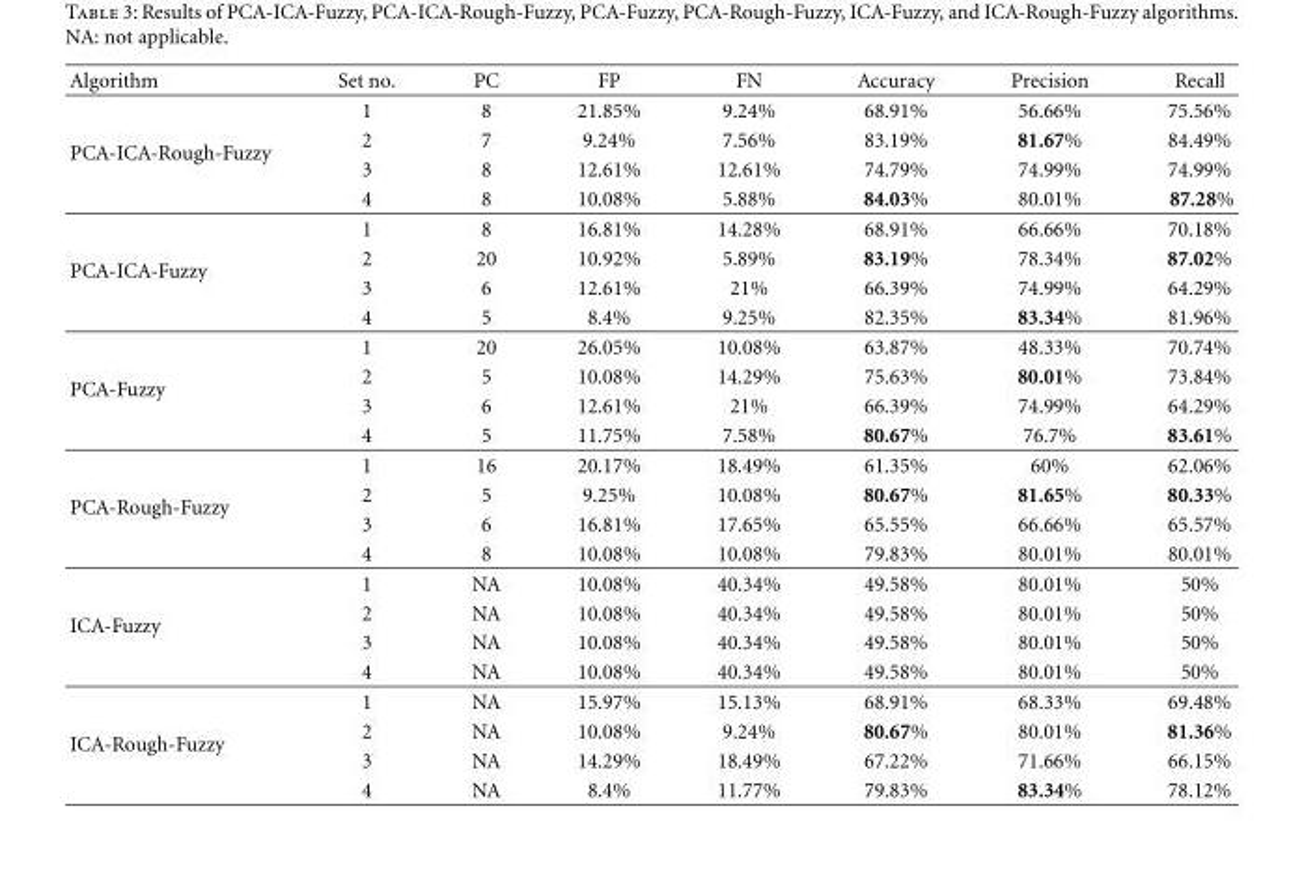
<table><thead><tr><td>Algorithm</td><td>Set no.</td><td>PC</td><td>FP</td><td>FN</td><td>Accuracy</td><td>Precision</td><td>Recall</td></tr></thead><tbody><tr><td rowspan="4">PCA-ICA-Rough-Fuzzy</td><td>1</td><td>8</td><td>21.85%</td><td>9.24%</td><td>68.91%</td><td>56.66%</td><td>75.56%</td></tr><tr><td>2</td><td>7</td><td>9.24%</td><td>7.56%</td><td>83.19%</td><td>81.67%</td><td>84.49%</td></tr><tr><td>3</td><td>8</td><td>12.61%</td><td>12.61%</td><td>74.79%</td><td>74.99%</td><td>74.99%</td></tr><tr><td>4</td><td>8</td><td>10.08%</td><td>5.88%</td><td>84.03%</td><td>80.01%</td><td>87.28%</td></tr><tr><td rowspan="4">PCA-ICA-Fuzzy</td><td>1</td><td>8</td><td>16.81%</td><td>14.28%</td><td>68.91%</td><td>66.66%</td><td>70.18%</td></tr><tr><td>2</td><td>20</td><td>10.92%</td><td>5.89%</td><td>83.19%</td><td>78.34%</td><td>87.02%</td></tr><tr><td>3</td><td>6</td><td>12.61%</td><td>21%</td><td>66.39%</td><td>74.99%</td><td>64.29%</td></tr><tr><td>4</td><td>5</td><td>8.4%</td><td>9.25%</td><td>82.35%</td><td>83.34%</td><td>81.96%</td></tr><tr><td rowspan="4">PCA-Fuzzy</td><td>1</td><td>20</td><td>26.05%</td><td>10.08%</td><td>63.87%</td><td>48.33%</td><td>70.74%</td></tr><tr><td>2</td><td>5</td><td>10.08%</td><td>14.29%</td><td>75.63%</td><td>80.01%</td><td>73.84%</td></tr><tr><td>3</td><td>6</td><td>12.61%</td><td>21%</td><td>66.39%</td><td>74.99%</td><td>64.29%</td></tr><tr><td>4</td><td>5</td><td>11.75%</td><td>7.58%</td><td>80.67%</td><td>76.7%</td><td>83.61%</td></tr><tr><td rowspan="4">PCA-Rough-Fuzzy</td><td>1</td><td>16</td><td>20.17%</td><td>18.49%</td><td>61.35%</td><td>60%</td><td>62.06%</td></tr><tr><td>2</td><td>5</td><td>9.25%</td><td>10.08%</td><td>80.67%</td><td>81.65%</td><td>80.33%</td></tr><tr><td>3</td><td>6</td><td>16.81%</td><td>17.65%</td><td>65.55%</td><td>66.66%</td><td>65.57%</td></tr><tr><td>4</td><td>8</td><td>10.08%</td><td>10.08%</td><td>79.83%</td><td>80.01%</td><td>80.01%</td></tr><tr><td rowspan="4">ICA-Fuzzy</td><td>1</td><td>NA</td><td>10.08%</td><td>40.34%</td><td>49.58%</td><td>80.01%</td><td>50%</td></tr><tr><td>2</td><td>NA</td><td>10.08%</td><td>40.34%</td><td>49.58%</td><td>80.01%</td><td>50%</td></tr><tr><td>3</td><td>NA</td><td>10.08%</td><td>40.34%</td><td>49.58%</td><td>80.01%</td><td>50%</td></tr><tr><td>4</td><td>NA</td><td>10.08%</td><td>40.34%</td><td>49.58%</td><td>80.01%</td><td>50%</td></tr><tr><td rowspan="4">ICA-Rough-Fuzzy</td><td>1</td><td>NA</td><td>15.97%</td><td>15.13%</td><td>68.91%</td><td>68.33%</td><td>69.48%</td></tr><tr><td>2</td><td>NA</td><td>10.08%</td><td>9.24%</td><td>80.67%</td><td>80.01%</td><td>81.36%</td></tr><tr><td>3</td><td>NA</td><td>14.29%</td><td>18.49%</td><td>67.22%</td><td>71.66%</td><td>66.15%</td></tr><tr><td>4</td><td>NA</td><td>8.4%</td><td>11.77%</td><td>79.83%</td><td>83.34%</td><td>78.12%</td></tr></tbody></table>